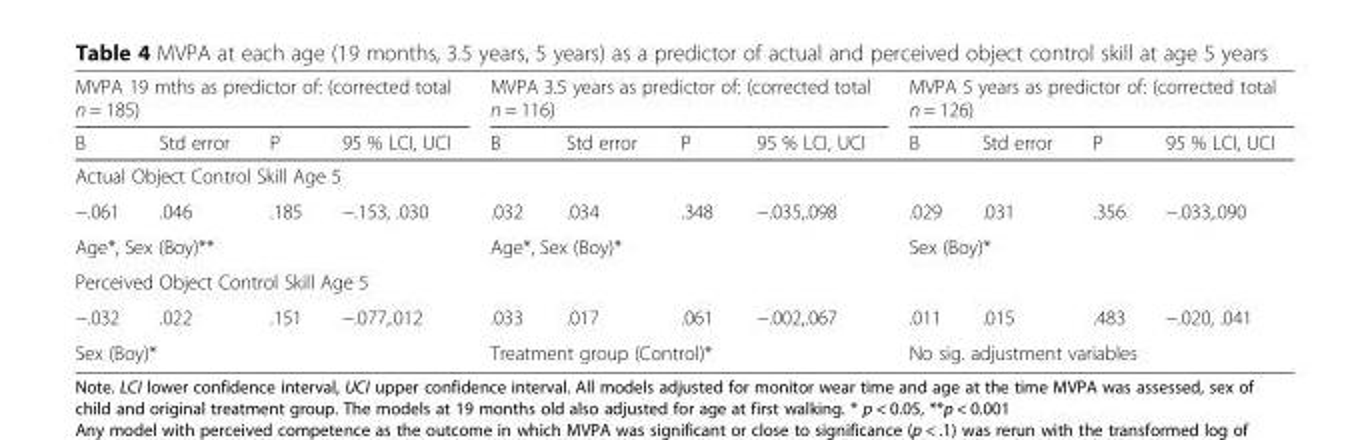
<table><thead><tr><td colspan="4">MVPA 19 mths as predictor of: (corrected total n = 185)</td><td colspan="4">MVPA 3.5 years as predictor of: (corrected total n = 116)</td><td colspan="4">MVPA 5 years as predictor of: (corrected total n = 126)</td></tr><tr><td>B</td><td>Std error</td><td>P</td><td>95 % LCI, UCI</td><td>B</td><td>Std error</td><td>P</td><td>95 % LCI, UCI</td><td>B</td><td>Std error</td><td>P</td><td>95 % LCI, UCI</td></tr></thead><tbody><tr><td colspan="12">Actual Object Control Skill Age 5</td></tr><tr><td>−.061</td><td>.046</td><td>.185</td><td>−.153, .030</td><td>.032</td><td>.034</td><td>.348</td><td>−.035,.098</td><td>.029</td><td>.031</td><td>.356</td><td>−.033,.090</td></tr><tr><td colspan="4">Age*, Sex (Boy)**</td><td colspan="4">Age*, Sex (Boy)*</td><td colspan="4">Sex (Boy)*</td></tr><tr><td colspan="12">Perceived Object Control Skill Age 5</td></tr><tr><td>−.032</td><td>.022</td><td>.151</td><td>−.077,.012</td><td>.033</td><td>.017</td><td>.061</td><td>−.002,.067</td><td>.011</td><td>.015</td><td>.483</td><td>−.020, .041</td></tr><tr><td colspan="4">Sex (Boy)*</td><td colspan="4">Treatment group (Control)*</td><td colspan="4">No sig. adjustment variables</td></tr></tbody></table>